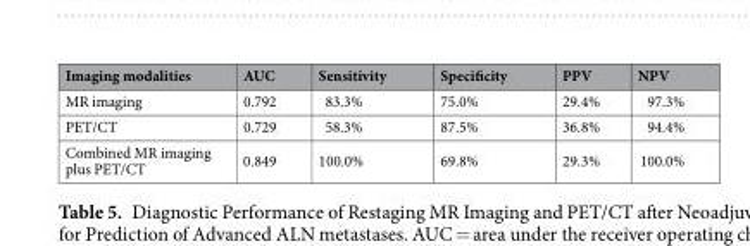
<table><thead><tr><td>Imaging modalities</td><td>AUC</td><td>Sensitivity</td><td>Specificity</td><td>PPV</td><td>NPV</td></tr></thead><tbody><tr><td>MR imaging</td><td>0.792</td><td>83.3%</td><td>75.0%</td><td>29.4%</td><td>97.3%</td></tr><tr><td>PET/CT</td><td>0.729</td><td>58.3%</td><td>87.5%</td><td>36.8%</td><td>94.4%</td></tr><tr><td>Combined MR imaging plus PET/CT</td><td>0.849</td><td>100.0%</td><td>69.8%</td><td>29.3%</td><td>100.0%</td></tr></tbody></table>